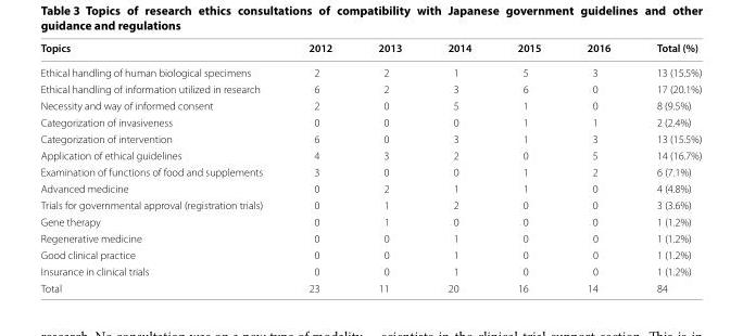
<table><thead><tr><td>Topics</td><td>2012</td><td>2013</td><td>2014</td><td>2015</td><td>2016</td><td>Total (%)</td></tr></thead><tbody><tr><td>Ethical handling of human biological specimens</td><td>2</td><td>2</td><td>1</td><td>5</td><td>3</td><td>13 (15.5%)</td></tr><tr><td>Ethical handling of information utilized in research</td><td>6</td><td>2</td><td>3</td><td>6</td><td>0</td><td>17 (20.1%)</td></tr><tr><td>Necessity and way of informed consent</td><td>2</td><td>0</td><td>5</td><td>1</td><td>0</td><td>8 (9.5%)</td></tr><tr><td>Categorization of invasiveness</td><td>0</td><td>0</td><td>0</td><td>1</td><td>1</td><td>2 (2.4%)</td></tr><tr><td>Categorization of intervention</td><td>6</td><td>0</td><td>3</td><td>1</td><td>3</td><td>13 (15.5%)</td></tr><tr><td>Application of ethical guidelines</td><td>4</td><td>3</td><td>2</td><td>0</td><td>5</td><td>14 (16.7%)</td></tr><tr><td>Examination of functions of food and supplements</td><td>3</td><td>0</td><td>0</td><td>1</td><td>2</td><td>6 (7.1%)</td></tr><tr><td>Advanced medicine</td><td>0</td><td>2</td><td>1</td><td>1</td><td>0</td><td>4 (4.8%)</td></tr><tr><td>Trials for governmental approval (registration trials)</td><td>0</td><td>1</td><td>2</td><td>0</td><td>0</td><td>3 (3.6%)</td></tr><tr><td>Gene therapy</td><td>0</td><td>1</td><td>0</td><td>0</td><td>0</td><td>1 (1.2%)</td></tr><tr><td>Regenerative medicine</td><td>0</td><td>0</td><td>1</td><td>0</td><td>0</td><td>1 (1.2%)</td></tr><tr><td>Good clinical practice</td><td>0</td><td>0</td><td>1</td><td>0</td><td>0</td><td>1 (1.2%)</td></tr><tr><td>Insurance in clinical trials</td><td>0</td><td>0</td><td>1</td><td>0</td><td>0</td><td>1 (1.2%)</td></tr><tr><td>Total</td><td>23</td><td>11</td><td>20</td><td>16</td><td>14</td><td>84</td></tr></tbody></table>